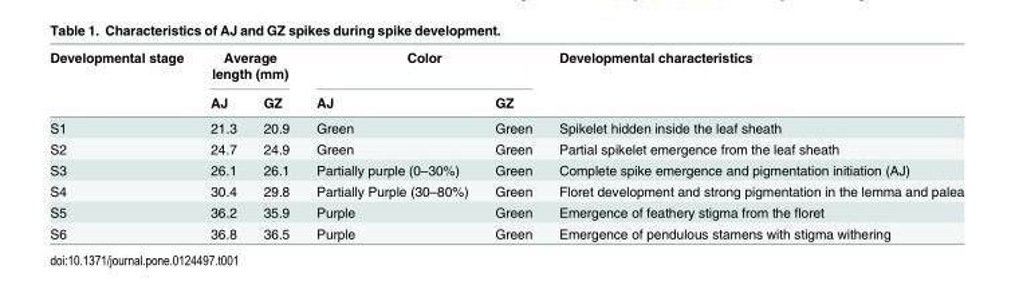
<table><thead><tr><td rowspan="2">Developmental stage</td><td colspan="2">Average length (mm)</td><td colspan="2">Color</td><td rowspan="2">Developmental characteristics</td></tr><tr><td>AJ</td><td>GZ</td><td>AJ</td><td>GZ</td></tr></thead><tbody><tr><td>S1</td><td>21.3</td><td>20.9</td><td>Green</td><td>Green</td><td>Spikelet hidden inside the leaf sheath</td></tr><tr><td>S2</td><td>24.7</td><td>24.9</td><td>Green</td><td>Green</td><td>Partial spikelet emergence from the leaf sheath</td></tr><tr><td>S3</td><td>26.1</td><td>26.1</td><td>Partially purple (0–30%)</td><td>Green</td><td>Complete spike emergence and pigmentation initiation (AJ)</td></tr><tr><td>S4</td><td>30.4</td><td>29.8</td><td>Partially Purple (30–80%)</td><td>Green</td><td>Floret development and strong pigmentation in the lemma and palea</td></tr><tr><td>S5</td><td>36.2</td><td>35.9</td><td>Purple</td><td>Green</td><td>Emergence of feathery stigma from the floret</td></tr><tr><td>S6</td><td>36.8</td><td>36.5</td><td>Purple</td><td>Green</td><td>Emergence of pendulous stamens with stigma withering</td></tr></tbody></table>